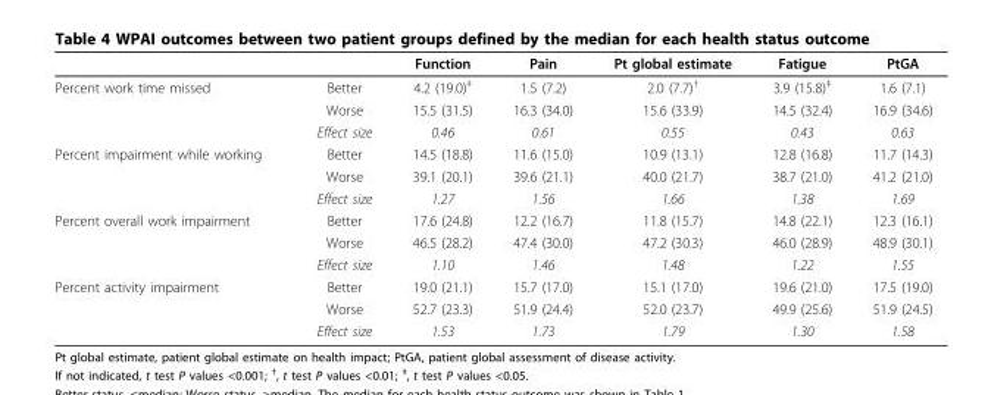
<table><thead><tr><td></td><td></td><td>Function</td><td>Pain</td><td>Pt global estimate</td><td>Fatigue</td><td>PtGA</td></tr></thead><tbody><tr><td rowspan="3">Percent work time missed</td><td>Better</td><td>4.2 (19.0)<sup>‡</sup></td><td>1.5 (7.2)</td><td>2.0 (7.7)<sup>†</sup></td><td>3.9 (15.8)<sup>‡</sup></td><td>1.6 (7.1)</td></tr><tr><td>Worse</td><td>15.5 (31.5)</td><td>16.3 (34.0)</td><td>15.6 (33.9)</td><td>14.5 (32.4)</td><td>16.9 (34.6)</td></tr><tr><td>Effect size</td><td>0.46</td><td>0.61</td><td>0.55</td><td>0.43</td><td>0.63</td></tr><tr><td rowspan="3">Percent impairment while working</td><td>Better</td><td>14.5 (18.8)</td><td>11.6 (15.0)</td><td>10.9 (13.1)</td><td>12.8 (16.8)</td><td>11.7 (14.3)</td></tr><tr><td>Worse</td><td>39.1 (20.1)</td><td>39.6 (21.1)</td><td>40.0 (21.7)</td><td>38.7 (21.0)</td><td>41.2 (21.0)</td></tr><tr><td>Effect size</td><td>1.27</td><td>1.56</td><td>1.66</td><td>1.38</td><td>1.69</td></tr><tr><td rowspan="3">Percent overall work impairment</td><td>Better</td><td>17.6 (24.8)</td><td>12.2 (16.7)</td><td>11.8 (15.7)</td><td>14.8 (22.1)</td><td>12.3 (16.1)</td></tr><tr><td>Worse</td><td>46.5 (28.2)</td><td>47.4 (30.0)</td><td>47.2 (30.3)</td><td>46.0 (28.9)</td><td>48.9 (30.1)</td></tr><tr><td>Effect size</td><td>1.10</td><td>1.46</td><td>1.48</td><td>1.22</td><td>1.55</td></tr><tr><td rowspan="3">Percent activity impairment</td><td>Better</td><td>19.0 (21.1)</td><td>15.7 (17.0)</td><td>15.1 (17.0)</td><td>19.6 (21.0)</td><td>17.5 (19.0)</td></tr><tr><td>Worse</td><td>52.7 (23.3)</td><td>51.9 (24.4)</td><td>52.0 (23.7)</td><td>49.9 (25.6)</td><td>51.9 (24.5)</td></tr><tr><td>Effect size</td><td>1.53</td><td>1.73</td><td>1.79</td><td>1.30</td><td>1.58</td></tr></tbody></table>